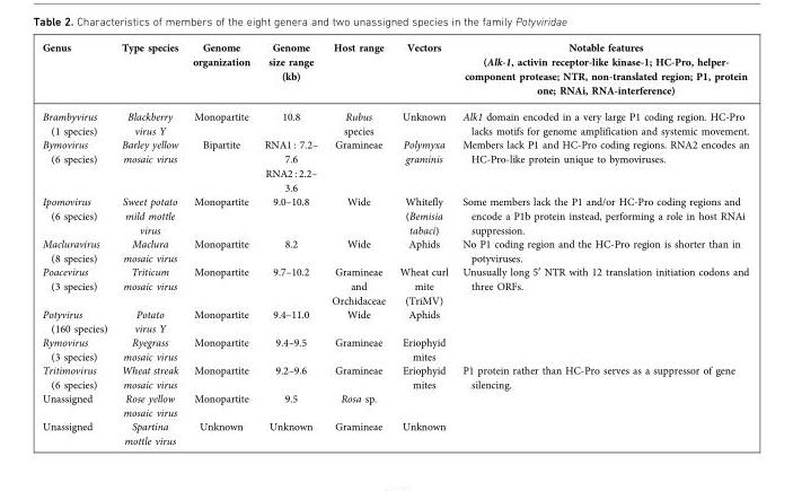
<table><thead><tr><td>Genus</td><td>Type species</td><td>Genome organization</td><td>Genome size range (kb)</td><td>Host range</td><td>Vectors</td><td>Notable features (Alk-1, activin receptor-like kinase-1; HC-Pro, helper- component protease; NTR, non-translated region; P1, protein one; RNAi, RNA-interference)</td></tr></thead><tbody><tr><td>Brambyvirus (1 species)</td><td>Blackberry virus Y</td><td>Monopartite</td><td>10.8</td><td>Rubus species</td><td>Unknown</td><td>Alk1 domain encoded in a very large P1 coding region. HC-Pro lacks motifs for genome amplification and systemic movement.</td></tr><tr><td>Bymovirus (6 species)</td><td>Barley yellow mosaic virus</td><td>Bipartite</td><td>RNA1 : 7.2– 7.6 RNA2 : 2.2– 3.6</td><td>Gramineae</td><td>Polymyxa graminis</td><td>Members lack P1 and HC-Pro coding regions. RNA2 encodes an HC-Pro-like protein unique to bymoviruses.</td></tr><tr><td>Ipomovirus (6 species)</td><td>Sweet potato mild mottle virus</td><td>Monopartite</td><td>9.0–10.8</td><td>Wide</td><td>Whitefly (Bemisia tabaci)</td><td>Some members lack the P1 and/or HC-Pro coding regions and encode a P1b protein instead, performing a role in host RNAi suppression.</td></tr><tr><td>Macluravirus (8 species)</td><td>Maclura mosaic virus</td><td>Monopartite</td><td>8.2</td><td>Wide</td><td>Aphids</td><td>No P1 coding region and the HC-Pro region is shorter than in potyviruses.</td></tr><tr><td>Poacevirus (3 species)</td><td>Triticum mosaic virus</td><td>Monopartite</td><td>9.7–10.2</td><td>Gramineae and Orchidaceae</td><td>Wheat curl mite (TriMV)</td><td>Unusually long 5¢ NTR with 12 translation initiation codons and three ORFs.</td></tr><tr><td>Potyvirus (160 species)</td><td>Potato virus Y</td><td>Monopartite</td><td>9.4–11.0</td><td>Wide</td><td>Aphids</td><td></td></tr><tr><td>Rymovirus (3 species)</td><td>Ryegrass mosaic virus</td><td>Monopartite</td><td>9.4–9.5</td><td>Gramineae</td><td>Eriophyid mites</td><td></td></tr><tr><td>Tritimovirus (6 species)</td><td>Wheat streak mosaic virus</td><td>Monopartite</td><td>9.2–9.6</td><td>Gramineae</td><td>Eriophyid mites</td><td>P1 protein rather than HC-Pro serves as a suppressor of gene silencing.</td></tr><tr><td>Unassigned</td><td>Rose yellow mosaic virus</td><td>Monopartite</td><td>9.5</td><td>Rosa sp.</td><td></td><td></td></tr><tr><td>Unassigned</td><td>Spartina mottle virus</td><td>Unknown</td><td>Unknown</td><td>Gramineae</td><td>Unknown</td><td></td></tr></tbody></table>